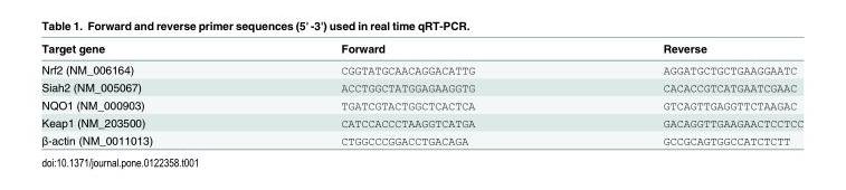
<table><thead><tr><td>Target gene</td><td>Forward</td><td>Reverse</td></tr></thead><tbody><tr><td>Nrf2 (NM_006164)</td><td>CGGTATGCAACAGGACATTG</td><td>AGGATGCTGCTGAAGGAATC</td></tr><tr><td>Siah2 (NM_005067)</td><td>ACCTGGCTATGGAGAAGGTG</td><td>CACACCGTCATGAATCGAAC</td></tr><tr><td>NQO1 (NM_000903)</td><td>TGATCGTACTGGCTCACTCA</td><td>GTCAGTTGAGGTTCTAAGAC</td></tr><tr><td>Keap1 (NM_203500)</td><td>CATCCACCCTAAGGTCATGA</td><td>GACAGGTTGAAGAACTCCTCC</td></tr><tr><td>β-actin (NM_0011013)</td><td>CTGGCCCGGACCTGACAGA</td><td>GCCGCAGTGGCCATCTCTT</td></tr></tbody></table>